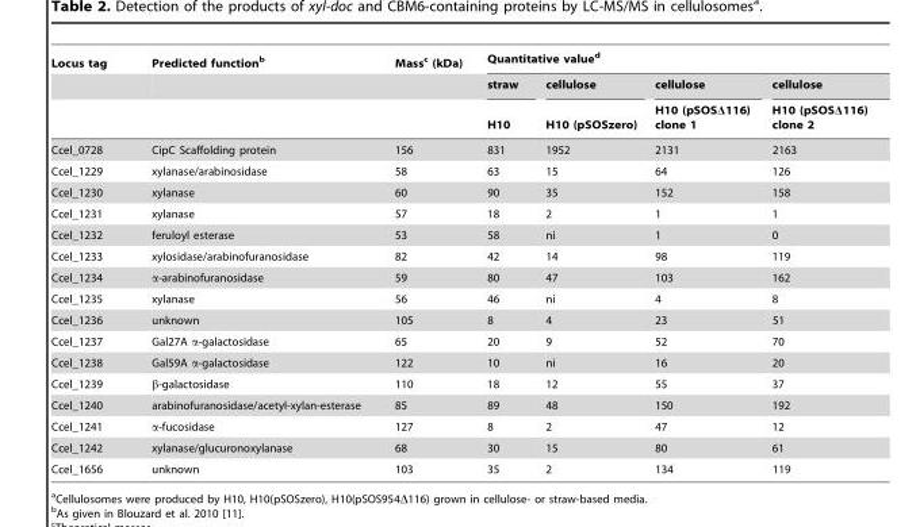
<table><thead><tr><td rowspan="3">Locus tag</td><td rowspan="3">Predicted function<sup>b</sup></td><td rowspan="3">Mass<sup>c</sup> (kDa)</td><td colspan="4">Quantitative value<sup>d</sup></td></tr><tr><td rowspan="2">straw H10</td><td rowspan="2">cellulose H10 (pSOSzero)</td><td rowspan="2">cellulose H10 (pSOSΔ116) clone 1</td><td rowspan="2">cellulose H10 (pSOSΔ116) clone 2</td></tr><tr></tr></thead><tbody><tr><td>Ccel_0728</td><td>CipC Scaffolding protein</td><td>156</td><td>831</td><td>1952</td><td>2131</td><td>2163</td></tr><tr><td>Ccel_1229</td><td>xylanase/arabinosidase</td><td>58</td><td>63</td><td>15</td><td>64</td><td>126</td></tr><tr><td>Ccel_1230</td><td>xylanase</td><td>60</td><td>90</td><td>35</td><td>152</td><td>158</td></tr><tr><td>Ccel_1231</td><td>xylanase</td><td>57</td><td>18</td><td>2</td><td>1</td><td>1</td></tr><tr><td>Ccel_1232</td><td>feruloyl esterase</td><td>53</td><td>58</td><td>ni</td><td>1</td><td>0</td></tr><tr><td>Ccel_1233</td><td>xylosidase/arabinofuranosidase</td><td>82</td><td>42</td><td>14</td><td>98</td><td>119</td></tr><tr><td>Ccel_1234</td><td>α-arabinofuranosidase</td><td>59</td><td>80</td><td>47</td><td>103</td><td>162</td></tr><tr><td>Ccel_1235</td><td>xylanase</td><td>56</td><td>46</td><td>ni</td><td>4</td><td>8</td></tr><tr><td>Ccel_1236</td><td>unknown</td><td>105</td><td>8</td><td>4</td><td>23</td><td>51</td></tr><tr><td>Ccel_1237</td><td>Gal27A α-galactosidase</td><td>65</td><td>20</td><td>9</td><td>52</td><td>70</td></tr><tr><td>Ccel_1238</td><td>Gal59A α-galactosidase</td><td>122</td><td>10</td><td>ni</td><td>16</td><td>20</td></tr><tr><td>Ccel_1239</td><td>β-galactosidase</td><td>110</td><td>18</td><td>12</td><td>55</td><td>37</td></tr><tr><td>Ccel_1240</td><td>arabinofuranosidase/acetyl-xylan-esterase</td><td>85</td><td>89</td><td>48</td><td>150</td><td>192</td></tr><tr><td>Ccel_1241</td><td>α-fucosidase</td><td>127</td><td>8</td><td>2</td><td>47</td><td>12</td></tr><tr><td>Ccel_1242</td><td>xylanase/glucuronoxylanase</td><td>68</td><td>30</td><td>15</td><td>80</td><td>61</td></tr><tr><td>Ccel_1656</td><td>unknown</td><td>103</td><td>35</td><td>2</td><td>134</td><td>119</td></tr></tbody></table>